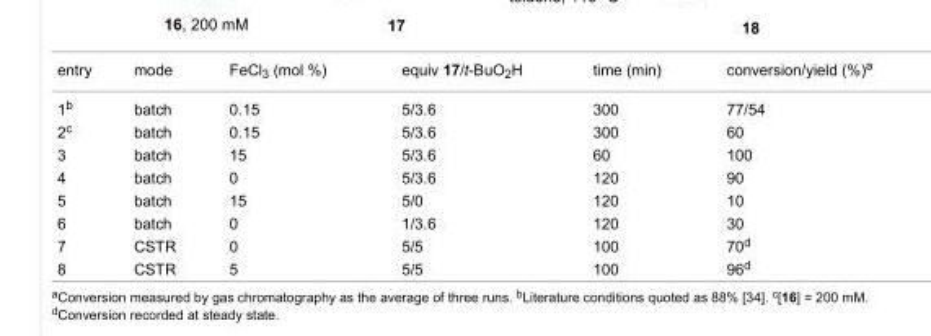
<table><tbody><tr><td>entry</td><td>mode</td><td>FeCl<sub>3</sub> (mol %)</td><td>equiv 17/t-BuO<sub>2</sub>H</td><td>time (min)</td><td>conversion/yield (%)<sup>a</sup></td></tr><tr><td>1<sup>b</sup></td><td>batch</td><td>0.15</td><td>5/3.6</td><td>300</td><td>77/54</td></tr><tr><td>2<sup>c</sup></td><td>batch</td><td>0.15</td><td>5/3.6</td><td>300</td><td>60</td></tr><tr><td>3</td><td>batch</td><td>15</td><td>5/3.6</td><td>60</td><td>100</td></tr><tr><td>4</td><td>batch</td><td>0</td><td>5/3.6</td><td>120</td><td>90</td></tr><tr><td>5</td><td>batch</td><td>15</td><td>5/0</td><td>120</td><td>10</td></tr><tr><td>6</td><td>batch</td><td>0</td><td>1/3.6</td><td>120</td><td>30</td></tr><tr><td>7</td><td>CSTR</td><td>0</td><td>5/5</td><td>100</td><td>70<sup>d</sup></td></tr><tr><td>8</td><td>CSTR</td><td>5</td><td>5/5</td><td>100</td><td>96<sup>d</sup></td></tr></tbody></table>